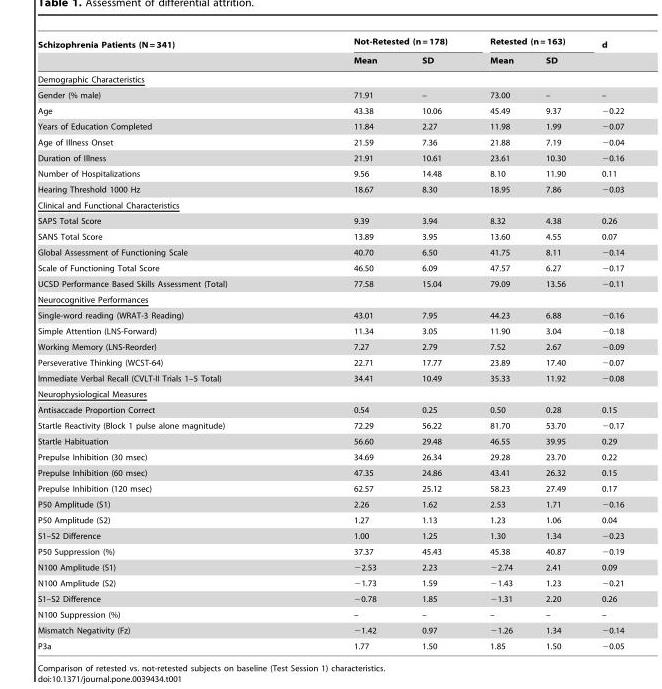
<table><thead><tr><td rowspan="2">Schizophrenia Patients (N = 341)</td><td colspan="2">Not-Retested (n = 178)</td><td colspan="2">Retested (n = 163)</td><td rowspan="2">d</td></tr><tr><td>Mean</td><td>SD</td><td>Mean</td><td>SD</td></tr></thead><tbody><tr><td colspan="6">Demographic Characteristics</td></tr><tr><td>Gender (% male)</td><td>71.91</td><td>–</td><td>73.00</td><td>–</td><td>–</td></tr><tr><td>Age</td><td>43.38</td><td>10.06</td><td>45.49</td><td>9.37</td><td>−0.22</td></tr><tr><td>Years of Education Completed</td><td>11.84</td><td>2.27</td><td>11.98</td><td>1.99</td><td>−0.07</td></tr><tr><td>Age of Illness Onset</td><td>21.59</td><td>7.36</td><td>21.88</td><td>7.19</td><td>−0.04</td></tr><tr><td>Duration of Illness</td><td>21.91</td><td>10.61</td><td>23.61</td><td>10.30</td><td>−0.16</td></tr><tr><td>Number of Hospitalizations</td><td>9.56</td><td>14.48</td><td>8.10</td><td>11.90</td><td>0.11</td></tr><tr><td>Hearing Threshold 1000 Hz</td><td>18.67</td><td>8.30</td><td>18.95</td><td>7.86</td><td>−0.03</td></tr><tr><td colspan="6">Clinical and Functional Characteristics</td></tr><tr><td>SAPS Total Score</td><td>9.39</td><td>3.94</td><td>8.32</td><td>4.38</td><td>0.26</td></tr><tr><td>SANS Total Score</td><td>13.89</td><td>3.95</td><td>13.60</td><td>4.55</td><td>0.07</td></tr><tr><td>Global Assessment of Functioning Scale</td><td>40.70</td><td>6.50</td><td>41.75</td><td>8.11</td><td>−0.14</td></tr><tr><td>Scale of Functioning Total Score</td><td>46.50</td><td>6.09</td><td>47.57</td><td>6.27</td><td>−0.17</td></tr><tr><td>UCSD Performance Based Skills Assessment (Total)</td><td>77.58</td><td>15.04</td><td>79.09</td><td>13.56</td><td>−0.11</td></tr><tr><td colspan="6">Neurocognitive Performances</td></tr><tr><td>Single-word reading (WRAT-3 Reading)</td><td>43.01</td><td>7.95</td><td>44.23</td><td>6.88</td><td>−0.16</td></tr><tr><td>Simple Attention (LNS-Forward)</td><td>11.34</td><td>3.05</td><td>11.90</td><td>3.04</td><td>−0.18</td></tr><tr><td>Working Memory (LNS-Reorder)</td><td>7.27</td><td>2.79</td><td>7.52</td><td>2.67</td><td>−0.09</td></tr><tr><td>Perseverative Thinking (WCST-64)</td><td>22.71</td><td>17.77</td><td>23.89</td><td>17.40</td><td>−0.07</td></tr><tr><td>Immediate Verbal Recall (CVLT-II Trials 1–5 Total)</td><td>34.41</td><td>10.49</td><td>35.33</td><td>11.92</td><td>−0.08</td></tr><tr><td colspan="6">Neurophysiological Measures</td></tr><tr><td>Antisaccade Proportion Correct</td><td>0.54</td><td>0.25</td><td>0.50</td><td>0.28</td><td>0.15</td></tr><tr><td>Startle Reactivity (Block 1 pulse alone magnitude)</td><td>72.29</td><td>56.22</td><td>81.70</td><td>53.70</td><td>−0.17</td></tr><tr><td>Startle Habituation</td><td>56.60</td><td>29.48</td><td>46.55</td><td>39.95</td><td>0.29</td></tr><tr><td>Prepulse Inhibition (30 msec)</td><td>34.69</td><td>26.34</td><td>29.28</td><td>23.70</td><td>0.22</td></tr><tr><td>Prepulse Inhibition (60 msec)</td><td>47.35</td><td>24.86</td><td>43.41</td><td>26.32</td><td>0.15</td></tr><tr><td>Prepulse Inhibition (120 msec)</td><td>62.57</td><td>25.12</td><td>58.23</td><td>27.49</td><td>0.17</td></tr><tr><td>P50 Amplitude (S1)</td><td>2.26</td><td>1.62</td><td>2.53</td><td>1.71</td><td>−0.16</td></tr><tr><td>P50 Amplitude (S2)</td><td>1.27</td><td>1.13</td><td>1.23</td><td>1.06</td><td>0.04</td></tr><tr><td>S1–S2 Difference</td><td>1.00</td><td>1.25</td><td>1.30</td><td>1.34</td><td>−0.23</td></tr><tr><td>P50 Suppression (%)</td><td>37.37</td><td>45.43</td><td>45.38</td><td>40.87</td><td>−0.19</td></tr><tr><td>N100 Amplitude (S1)</td><td>−2.53</td><td>2.23</td><td>−2.74</td><td>2.41</td><td>0.09</td></tr><tr><td>N100 Amplitude (S2)</td><td>−1.73</td><td>1.59</td><td>−1.43</td><td>1.23</td><td>−0.21</td></tr><tr><td>S1–S2 Difference</td><td>−0.78</td><td>1.85</td><td>−1.31</td><td>2.20</td><td>0.26</td></tr><tr><td>N100 Suppression (%)</td><td>–</td><td>–</td><td>–</td><td>–</td><td>–</td></tr><tr><td>Mismatch Negativity (Fz)</td><td>−1.42</td><td>0.97</td><td>−1.26</td><td>1.34</td><td>−0.14</td></tr><tr><td>P3a</td><td>1.77</td><td>1.50</td><td>1.85</td><td>1.50</td><td>−0.05</td></tr></tbody></table>